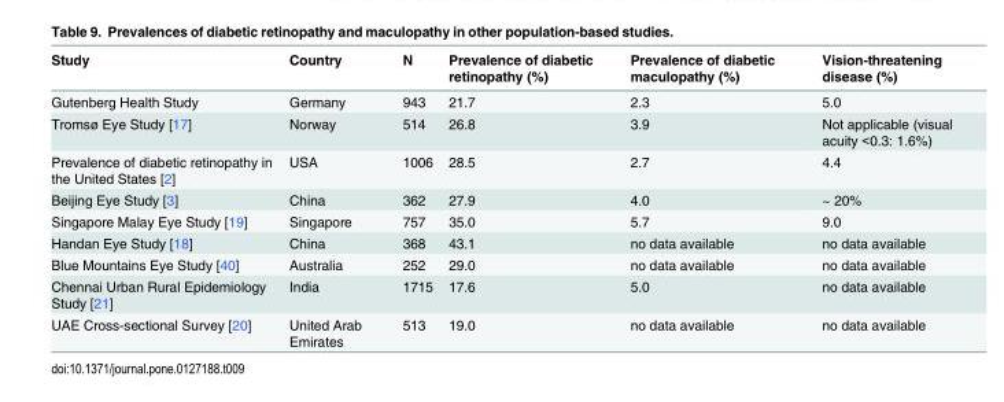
<table><thead><tr><td>Study</td><td>Country</td><td>N</td><td>Prevalence of diabetic retinopathy (%)</td><td>Prevalence of diabetic maculopathy (%)</td><td>Vision-threatening disease (%)</td></tr></thead><tbody><tr><td>Gutenberg Health Study</td><td>Germany</td><td>943</td><td>21.7</td><td>2.3</td><td>5.0</td></tr><tr><td>Tromsø Eye Study [17]</td><td>Norway</td><td>514</td><td>26.8</td><td>3.9</td><td>Not applicable (visual acuity &lt;0.3: 1.6%)</td></tr><tr><td>Prevalence of diabetic retinopathy in the United States [2]</td><td>USA</td><td>1006</td><td>28.5</td><td>2.7</td><td>4.4</td></tr><tr><td>Beijing Eye Study [3]</td><td>China</td><td>362</td><td>27.9</td><td>4.0</td><td>~ 20%</td></tr><tr><td>Singapore Malay Eye Study [19]</td><td>Singapore</td><td>757</td><td>35.0</td><td>5.7</td><td>9.0</td></tr><tr><td>Handan Eye Study [18]</td><td>China</td><td>368</td><td>43.1</td><td>no data available</td><td>no data available</td></tr><tr><td>Blue Mountains Eye Study [40]</td><td>Australia</td><td>252</td><td>29.0</td><td>no data available</td><td>no data available</td></tr><tr><td>Chennai Urban Rural Epidemiology Study [21]</td><td>India</td><td>1715</td><td>17.6</td><td>5.0</td><td>no data available</td></tr><tr><td>UAE Cross-sectional Survey [20]</td><td>United Arab Emirates</td><td>513</td><td>19.0</td><td>no data available</td><td>no data available</td></tr></tbody></table>